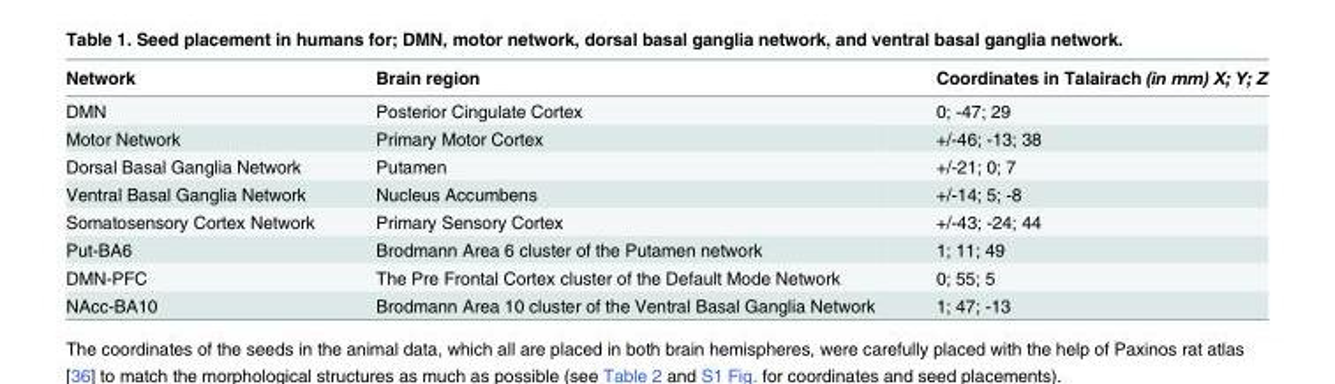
<table><thead><tr><td>Network</td><td>Brain region</td><td>Coordinates in Talairach (in mm) X; Y; Z</td></tr></thead><tbody><tr><td>DMN</td><td>Posterior Cingulate Cortex</td><td>0; -47; 29</td></tr><tr><td>Motor Network</td><td>Primary Motor Cortex</td><td>+/-46; -13; 38</td></tr><tr><td>Dorsal Basal Ganglia Network</td><td>Putamen</td><td>+/-21; 0; 7</td></tr><tr><td>Ventral Basal Ganglia Network</td><td>Nucleus Accumbens</td><td>+/-14; 5; -8</td></tr><tr><td>Somatosensory Cortex Network</td><td>Primary Sensory Cortex</td><td>+/-43; -24; 44</td></tr><tr><td>Put-BA6</td><td>Brodmann Area 6 cluster of the Putamen network</td><td>1; 11; 49</td></tr><tr><td>DMN-PFC</td><td>The Pre Frontal Cortex cluster of the Default Mode Network</td><td>0; 55; 5</td></tr><tr><td>NAcc-BA10</td><td>Brodmann Area 10 cluster of the Ventral Basal Ganglia Network</td><td>1; 47; -13</td></tr></tbody></table>